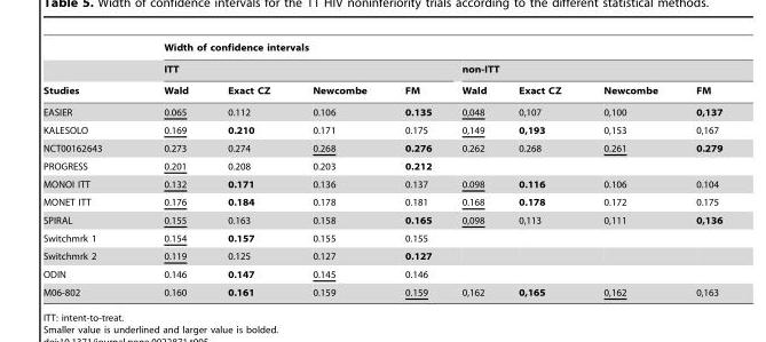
<table><thead><tr><td rowspan="3">Studies</td><td colspan="8">Width of confidence intervals</td></tr><tr><td colspan="4">ITT</td><td colspan="4">non-ITT</td></tr><tr><td>Wald</td><td>Exact CZ</td><td>Newcombe</td><td>FM</td><td>Wald</td><td>Exact CZ</td><td>Newcombe</td><td>FM</td></tr></thead><tbody><tr><td>EASIER</td><td>0.065</td><td>0.112</td><td>0.106</td><td>0.135</td><td>0,048</td><td>0,107</td><td>0,100</td><td>0,137</td></tr><tr><td>KALESOLO</td><td>0.169</td><td>0.210</td><td>0.171</td><td>0.175</td><td>0,149</td><td>0,193</td><td>0,153</td><td>0,167</td></tr><tr><td>NCT00162643</td><td>0.273</td><td>0.274</td><td>0.268</td><td>0.276</td><td>0.262</td><td>0.268</td><td>0.261</td><td>0.279</td></tr><tr><td>PROGRESS</td><td>0.201</td><td>0.208</td><td>0.203</td><td>0.212</td><td></td><td></td><td></td><td></td></tr><tr><td>MONOI ITT</td><td>0.132</td><td>0.171</td><td>0.136</td><td>0.137</td><td>0.098</td><td>0.116</td><td>0.106</td><td>0.104</td></tr><tr><td>MONET ITT</td><td>0.176</td><td>0.184</td><td>0.178</td><td>0.181</td><td>0.168</td><td>0.178</td><td>0.172</td><td>0.175</td></tr><tr><td>SPIRAL</td><td>0.155</td><td>0.163</td><td>0.158</td><td>0.165</td><td>0,098</td><td>0,113</td><td>0,111</td><td>0,136</td></tr><tr><td>Switchmrk 1</td><td>0.154</td><td>0.157</td><td>0.155</td><td>0.155</td><td></td><td></td><td></td><td></td></tr><tr><td>Switchmrk 2</td><td>0.119</td><td>0.125</td><td>0.127</td><td>0.127</td><td></td><td></td><td></td><td></td></tr><tr><td>ODIN</td><td>0.146</td><td>0.147</td><td>0.145</td><td>0.146</td><td></td><td></td><td></td><td></td></tr><tr><td>M06-802</td><td>0.160</td><td>0.161</td><td>0.159</td><td>0.159</td><td>0,162</td><td>0,165</td><td>0,162</td><td>0,163</td></tr></tbody></table>